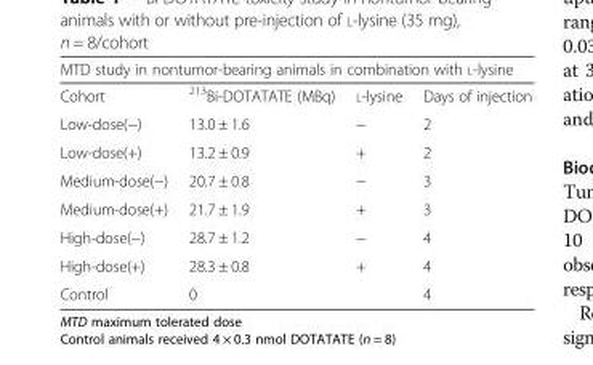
<table><thead><tr><td colspan="4">MTD study in nontumor-bearing animals in combination with L-lysine</td></tr><tr><td>Cohort</td><td><sup>213</sup>Bi-DOTATATE (MBq)</td><td>L-lysine</td><td>Days of injection</td></tr></thead><tbody><tr><td>Low-dose(−)</td><td>13.0 ± 1.6</td><td>−</td><td>2</td></tr><tr><td>Low-dose(+)</td><td>13.2 ± 0.9</td><td>+</td><td>2</td></tr><tr><td>Medium-dose(−)</td><td>20.7 ± 0.8</td><td>−</td><td>3</td></tr><tr><td>Medium-dose(+)</td><td>21.7 ± 1.9</td><td>+</td><td>3</td></tr><tr><td>High-dose(−)</td><td>28.7 ± 1.2</td><td>−</td><td>4</td></tr><tr><td>High-dose(+)</td><td>28.3 ± 0.8</td><td>+</td><td>4</td></tr><tr><td>Control</td><td>0</td><td></td><td>4</td></tr></tbody></table>